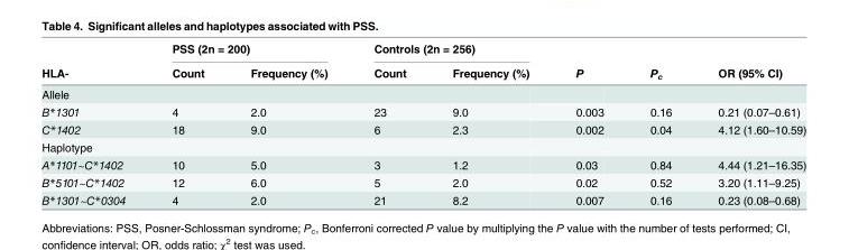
<table><thead><tr><td rowspan="2">HLA-</td><td colspan="2">PSS (2n = 200)</td><td colspan="2">Controls (2n = 256)</td><td rowspan="2">P</td><td rowspan="2">P<sub>c</sub></td><td rowspan="2">OR (95% CI)</td></tr><tr><td>Count</td><td>Frequency (%)</td><td>Count</td><td>Frequency (%)</td></tr></thead><tbody><tr><td colspan="8">Allele</td></tr><tr><td>B*1301</td><td>4</td><td>2.0</td><td>23</td><td>9.0</td><td>0.003</td><td>0.16</td><td>0.21 (0.07–0.61)</td></tr><tr><td>C*1402</td><td>18</td><td>9.0</td><td>6</td><td>2.3</td><td>0.002</td><td>0.04</td><td>4.12 (1.60–10.59)</td></tr><tr><td colspan="8">Haplotype</td></tr><tr><td>A*1101~C*1402</td><td>10</td><td>5.0</td><td>3</td><td>1.2</td><td>0.03</td><td>0.84</td><td>4.44 (1.21–16.35)</td></tr><tr><td>B*5101~C*1402</td><td>12</td><td>6.0</td><td>5</td><td>2.0</td><td>0.02</td><td>0.52</td><td>3.20 (1.11–9.25)</td></tr><tr><td>B*1301~C*0304</td><td>4</td><td>2.0</td><td>21</td><td>8.2</td><td>0.007</td><td>0.16</td><td>0.23 (0.08–0.68)</td></tr></tbody></table>